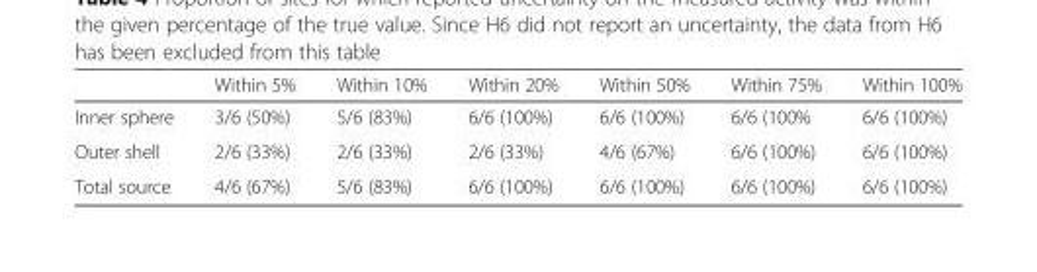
<table><thead><tr><td></td><td>Within 5%</td><td>Within 10%</td><td>Within 20%</td><td>Within 50%</td><td>Within 75%</td><td>Within 100%</td></tr></thead><tbody><tr><td>Inner sphere</td><td>3/6 (50%)</td><td>5/6 (83%)</td><td>6/6 (100%)</td><td>6/6 (100%)</td><td>6/6 (100%</td><td>6/6 (100%)</td></tr><tr><td>Outer shell</td><td>2/6 (33%)</td><td>2/6 (33%)</td><td>2/6 (33%)</td><td>4/6 (67%)</td><td>6/6 (100%)</td><td>6/6 (100%)</td></tr><tr><td>Total source</td><td>4/6 (67%)</td><td>5/6 (83%)</td><td>6/6 (100%)</td><td>6/6 (100%)</td><td>6/6 (100%)</td><td>6/6 (100%)</td></tr></tbody></table>